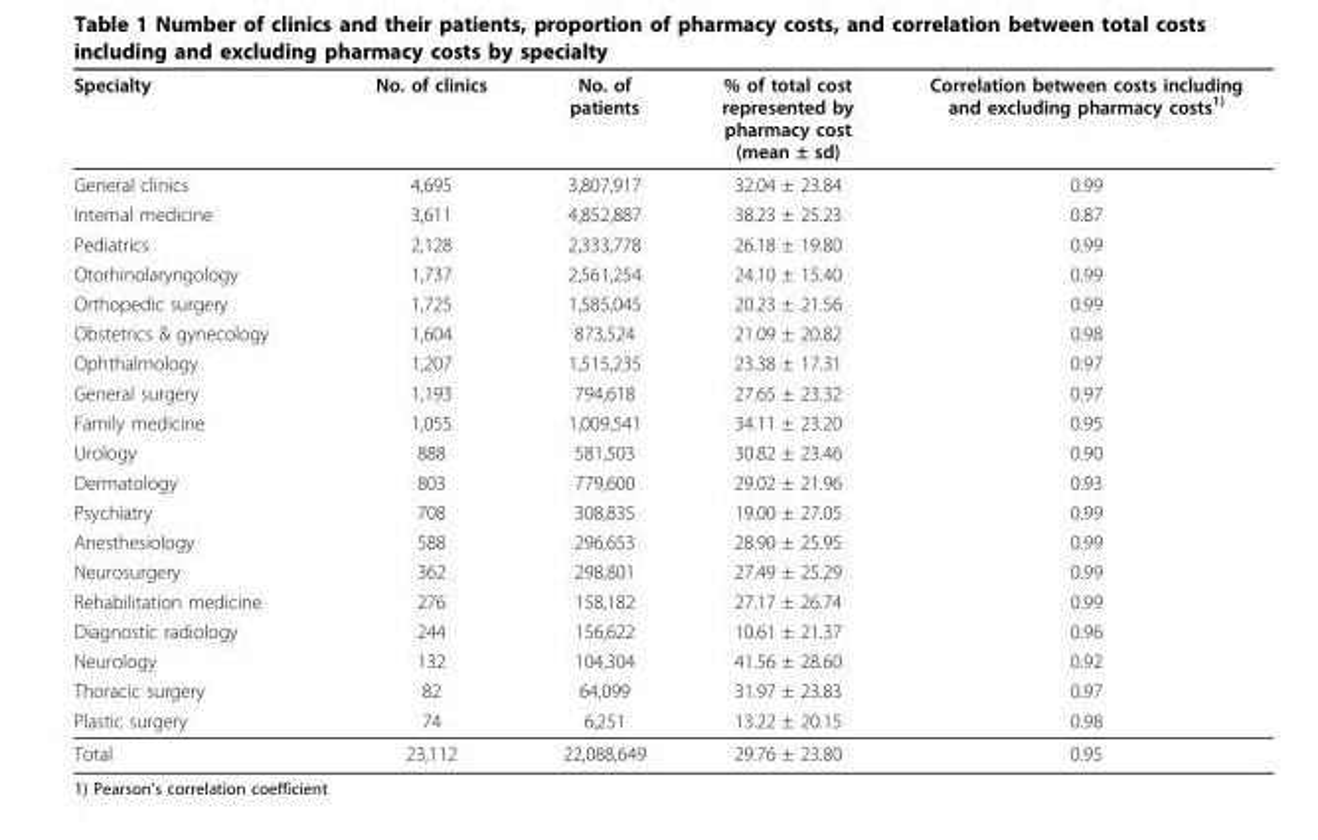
<table><thead><tr><td>Specialty</td><td>No. of clinics</td><td>No. of patients</td><td>% of total cost represented by pharmacy cost (mean ± sd)</td><td>Correlation between costs including and excluding pharmacy costs<sup>1)</sup></td></tr></thead><tbody><tr><td>General clinics</td><td>4,695</td><td>3,807,917</td><td>32.04 ± 23.84</td><td>0.99</td></tr><tr><td>Internal medicine</td><td>3,611</td><td>4,852,887</td><td>38.23 ± 25.23</td><td>0.87</td></tr><tr><td>Pediatrics</td><td>2,128</td><td>2,333,778</td><td>26.18 ± 19.80</td><td>0.99</td></tr><tr><td>Otorhinolaryngology</td><td>1,737</td><td>2,561,254</td><td>24.10 ± 15.40</td><td>0.99</td></tr><tr><td>Orthopedic surgery</td><td>1,725</td><td>1,585,045</td><td>20.23 ± 21.56</td><td>0.99</td></tr><tr><td>Obstetrics &amp; gynecology</td><td>1,604</td><td>873,524</td><td>21.09 ± 20.82</td><td>0.98</td></tr><tr><td>Ophthalmology</td><td>1,207</td><td>1,515,235</td><td>23.38 ± 17.31</td><td>0.97</td></tr><tr><td>General surgery</td><td>1,193</td><td>794,618</td><td>27.65 ± 23.32</td><td>0.97</td></tr><tr><td>Family medicine</td><td>1,055</td><td>1,009,541</td><td>34.11 ± 23.20</td><td>0.95</td></tr><tr><td>Urology</td><td>888</td><td>581,503</td><td>30.82 ± 23.46</td><td>0.90</td></tr><tr><td>Dermatology</td><td>803</td><td>779,600</td><td>29.02 ± 21.96</td><td>0.93</td></tr><tr><td>Psychiatry</td><td>708</td><td>308,835</td><td>19.00 ± 27.05</td><td>0.99</td></tr><tr><td>Anesthesiology</td><td>588</td><td>296,653</td><td>28.90 ± 25.95</td><td>0.99</td></tr><tr><td>Neurosurgery</td><td>362</td><td>298,801</td><td>27.49 ± 25.29</td><td>0.99</td></tr><tr><td>Rehabilitation medicine</td><td>276</td><td>158,182</td><td>27.17 ± 26.74</td><td>0.99</td></tr><tr><td>Diagnostic radiology</td><td>244</td><td>156,622</td><td>10.61 ± 21.37</td><td>0.96</td></tr><tr><td>Neurology</td><td>132</td><td>104,304</td><td>41.56 ± 28.60</td><td>0.92</td></tr><tr><td>Thoracic surgery</td><td>82</td><td>64,099</td><td>31.97 ± 23.83</td><td>0.97</td></tr><tr><td>Plastic surgery</td><td>74</td><td>6,251</td><td>13.22 ± 20.15</td><td>0.98</td></tr><tr><td>Total</td><td>23,112</td><td>22,088,649</td><td>29.76 ± 23.80</td><td>0.95</td></tr></tbody></table>